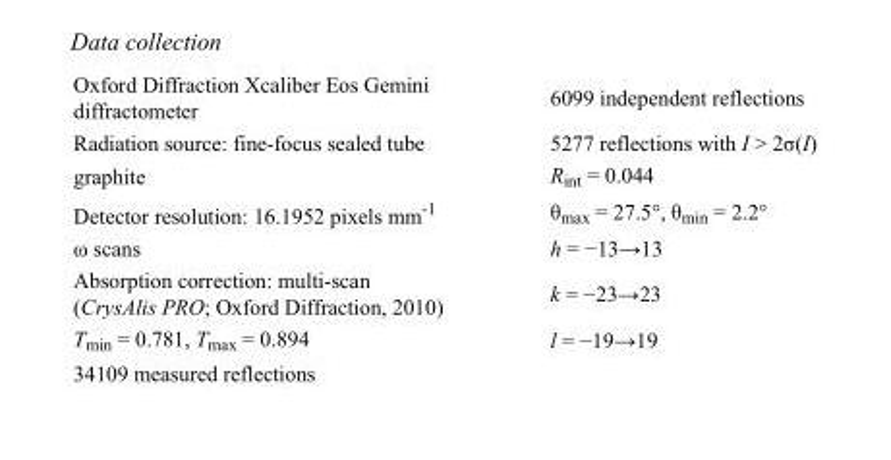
<table><tbody><tr><td>Oxford Diffraction Xcaliber Eos Gemini diffractometer</td><td>6099 independent reflections</td></tr><tr><td>Radiation source: fine-focus sealed tube</td><td>5277 reflections with I &gt; 2σ(I)</td></tr><tr><td>graphite</td><td>R<sub>int</sub> = 0.044</td></tr><tr><td>Detector resolution: 16.1952 pixels mm<sup>-1</sup></td><td>θ<sub>max</sub> = 27.5°, θ<sub>min</sub> = 2.2°</td></tr><tr><td>ω scans</td><td>h = −13→13</td></tr><tr><td>Absorption correction: multi-scan (CrysAlis PRO; Oxford Diffraction, 2010)</td><td>k = −23→23</td></tr><tr><td>T<sub>min</sub> = 0.781, T<sub>max</sub> = 0.894</td><td>l = −19→19</td></tr><tr><td>34109 measured reflections</td><td></td></tr></tbody></table>